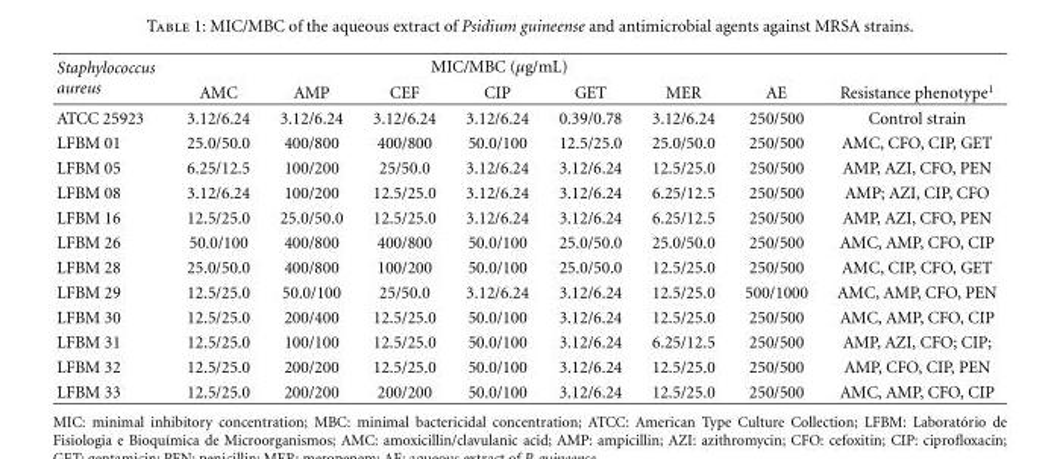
<table><thead><tr><td rowspan="2">Staphylococcus aureus</td><td colspan="7">MIC/MBC (µg/mL)</td><td rowspan="2">Resistance phenotype<sup>1</sup></td></tr><tr><td>AMC</td><td>AMP</td><td>CEF</td><td>CIP</td><td>GET</td><td>MER</td><td>AE</td></tr></thead><tbody><tr><td>ATCC 25923</td><td>3.12/6.24</td><td>3.12/6.24</td><td>3.12/6.24</td><td>3.12/6.24</td><td>0.39/0.78</td><td>3.12/6.24</td><td>250/500</td><td>Control strain</td></tr><tr><td>LFBM 01</td><td>25.0/50.0</td><td>400/800</td><td>400/800</td><td>50.0/100</td><td>12.5/25.0</td><td>25.0/50.0</td><td>250/500</td><td>AMC, CFO, CIP, GET</td></tr><tr><td>LFBM 05</td><td>6.25/12.5</td><td>100/200</td><td>25/50.0</td><td>3.12/6.24</td><td>3.12/6.24</td><td>12.5/25.0</td><td>250/500</td><td>AMP, AZI, CFO, PEN</td></tr><tr><td>LFBM 08</td><td>3.12/6.24</td><td>100/200</td><td>12.5/25.0</td><td>3.12/6.24</td><td>3.12/6.24</td><td>6.25/12.5</td><td>250/500</td><td>AMP; AZI, CIP, CFO</td></tr><tr><td>LFBM 16</td><td>12.5/25.0</td><td>25.0/50.0</td><td>12.5/25.0</td><td>3.12/6.24</td><td>3.12/6.24</td><td>6.25/12.5</td><td>250/500</td><td>AMP, AZI, CFO, PEN</td></tr><tr><td>LFBM 26</td><td>50.0/100</td><td>400/800</td><td>400/800</td><td>50.0/100</td><td>25.0/50.0</td><td>25.0/50.0</td><td>250/500</td><td>AMC, AMP, CFO, CIP</td></tr><tr><td>LFBM 28</td><td>25.0/50.0</td><td>400/800</td><td>100/200</td><td>50.0/100</td><td>25.0/50.0</td><td>12.5/25.0</td><td>250/500</td><td>AMC, CIP, CFO, GET</td></tr><tr><td>LFBM 29</td><td>12.5/25.0</td><td>50.0/100</td><td>25/50.0</td><td>3.12/6.24</td><td>3.12/6.24</td><td>12.5/25.0</td><td>500/1000</td><td>AMC, AMP, CFO, PEN</td></tr><tr><td>LFBM 30</td><td>12.5/25.0</td><td>200/400</td><td>12.5/25.0</td><td>50.0/100</td><td>3.12/6.24</td><td>12.5/25.0</td><td>250/500</td><td>AMC, AMP, CFO, CIP</td></tr><tr><td>LFBM 31</td><td>12.5/25.0</td><td>100/100</td><td>12.5/25.0</td><td>50.0/100</td><td>3.12/6.24</td><td>6.25/12.5</td><td>250/500</td><td>AMP, AZI, CFO; CIP;</td></tr><tr><td>LFBM 32</td><td>12.5/25.0</td><td>200/200</td><td>12.5/25.0</td><td>50.0/100</td><td>3.12/6.24</td><td>12.5/25.0</td><td>250/500</td><td>AMP, CFO, CIP, PEN</td></tr><tr><td>LFBM 33</td><td>12.5/25.0</td><td>200/200</td><td>200/200</td><td>50.0/100</td><td>3.12/6.24</td><td>12.5/25.0</td><td>250/500</td><td>AMC, AMP, CFO, CIP</td></tr></tbody></table>